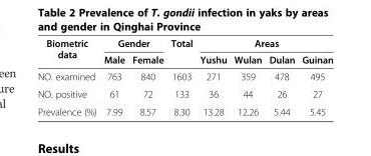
<table><thead><tr><td rowspan="2">Biometric data</td><td colspan="2">Gender</td><td rowspan="2">Total</td><td colspan="4">Areas</td></tr><tr><td>Male</td><td>Female</td><td>Yushu</td><td>Wulan</td><td>Dulan</td><td>Guinan</td></tr></thead><tbody><tr><td>NO. examined</td><td>763</td><td>840</td><td>1603</td><td>271</td><td>359</td><td>478</td><td>495</td></tr><tr><td>NO. positive</td><td>61</td><td>72</td><td>133</td><td>36</td><td>44</td><td>26</td><td>27</td></tr><tr><td>Prevalence (%)</td><td>7.99</td><td>8.57</td><td>8.30</td><td>13.28</td><td>12.26</td><td>5.44</td><td>5.45</td></tr></tbody></table>